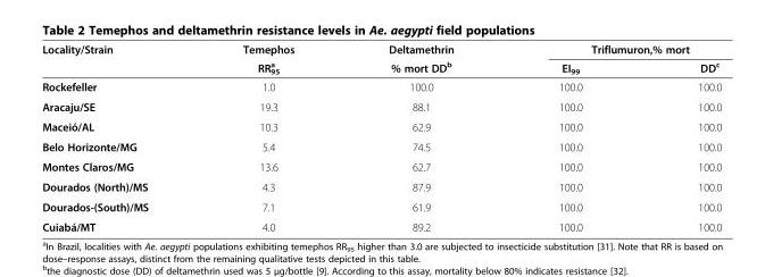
<table><thead><tr><td rowspan="2">Locality/Strain</td><td rowspan="2">Temephos RR<sub>95</sub> <sup>a</sup></td><td rowspan="2">Deltamethrin % mort DD<sup>b</sup></td><td colspan="2">Triflumuron,% mort</td></tr><tr><td>EI<sub>99</sub></td><td>DD<sup>c</sup></td></tr></thead><tbody><tr><td>Rockefeller</td><td>1.0</td><td>100.0</td><td>100.0</td><td>100.0</td></tr><tr><td>Aracaju/SE</td><td>19.3</td><td>88.1</td><td>100.0</td><td>100.0</td></tr><tr><td>Maceió/AL</td><td>10.3</td><td>62.9</td><td>100.0</td><td>100.0</td></tr><tr><td>Belo Horizonte/MG</td><td>5.4</td><td>74.5</td><td>100.0</td><td>100.0</td></tr><tr><td>Montes Claros/MG</td><td>13.6</td><td>62.7</td><td>100.0</td><td>100.0</td></tr><tr><td>Dourados (North)/MS</td><td>4.3</td><td>87.9</td><td>100.0</td><td>100.0</td></tr><tr><td>Dourados-(South)/MS</td><td>7.1</td><td>61.9</td><td>100.0</td><td>100.0</td></tr><tr><td>Cuiabá/MT</td><td>4.0</td><td>89.2</td><td>100.0</td><td>100.0</td></tr></tbody></table>